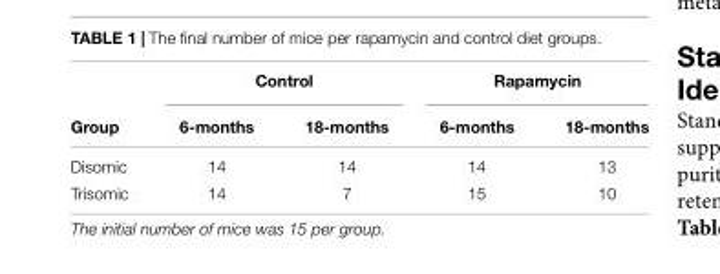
<table><thead><tr><td rowspan="2">Group</td><td colspan="2">Control</td><td colspan="2">Rapamycin</td></tr><tr><td>6-months</td><td>18-months</td><td>6-months</td><td>18-months</td></tr></thead><tbody><tr><td>Disomic</td><td>14</td><td>14</td><td>14</td><td>13</td></tr><tr><td>Trisomic</td><td>14</td><td>7</td><td>15</td><td>10</td></tr></tbody></table>